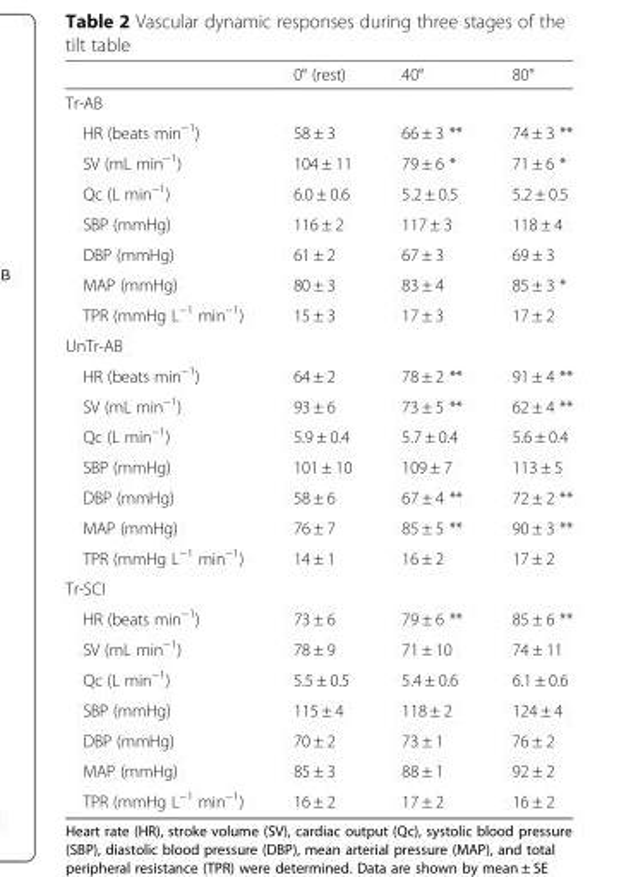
<table><thead><tr><td></td><td>0° (rest)</td><td>40°</td><td>80°</td></tr></thead><tbody><tr><td colspan="4">Tr-AB</td></tr><tr><td>HR (beats min<sup>−1</sup>)</td><td>58 ± 3</td><td>66 ± 3 **</td><td>74 ± 3 **</td></tr><tr><td>SV (mL min<sup>−1</sup>)</td><td>104 ± 11</td><td>79 ± 6 *</td><td>71 ± 6 *</td></tr><tr><td>Qc (L min<sup>−1</sup>)</td><td>6.0 ± 0.6</td><td>5.2 ± 0.5</td><td>5.2 ± 0.5</td></tr><tr><td>SBP (mmHg)</td><td>116 ± 2</td><td>117 ± 3</td><td>118 ± 4</td></tr><tr><td>DBP (mmHg)</td><td>61 ± 2</td><td>67 ± 3</td><td>69 ± 3</td></tr><tr><td>MAP (mmHg)</td><td>80 ± 3</td><td>83 ± 4</td><td>85 ± 3 *</td></tr><tr><td>TPR (mmHg L<sup>−1</sup> min<sup>−1</sup>)</td><td>15 ± 3</td><td>17 ± 3</td><td>17 ± 2</td></tr><tr><td colspan="4">UnTr-AB</td></tr><tr><td>HR (beats min<sup>−1</sup>)</td><td>64 ± 2</td><td>78 ± 2 **</td><td>91 ± 4 **</td></tr><tr><td>SV (mL min<sup>−1</sup>)</td><td>93 ± 6</td><td>73 ± 5 **</td><td>62 ± 4 **</td></tr><tr><td>Qc (L min<sup>−1</sup>)</td><td>5.9 ± 0.4</td><td>5.7 ± 0.4</td><td>5.6 ± 0.4</td></tr><tr><td>SBP (mmHg)</td><td>101 ± 10</td><td>109 ± 7</td><td>113 ± 5</td></tr><tr><td>DBP (mmHg)</td><td>58 ± 6</td><td>67 ± 4 **</td><td>72 ± 2 **</td></tr><tr><td>MAP (mmHg)</td><td>76 ± 7</td><td>85 ± 5 **</td><td>90 ± 3 **</td></tr><tr><td>TPR (mmHg L<sup>−1</sup> min<sup>−1</sup>)</td><td>14 ± 1</td><td>16 ± 2</td><td>17 ± 2</td></tr><tr><td colspan="4">Tr-SCI</td></tr><tr><td>HR (beats min<sup>−1</sup>)</td><td>73 ± 6</td><td>79 ± 6 **</td><td>85 ± 6 **</td></tr><tr><td>SV (mL min<sup>−1</sup>)</td><td>78 ± 9</td><td>71 ± 10</td><td>74 ± 11</td></tr><tr><td>Qc (L min<sup>−1</sup>)</td><td>5.5 ± 0.5</td><td>5.4 ± 0.6</td><td>6.1 ± 0.6</td></tr><tr><td>SBP (mmHg)</td><td>115 ± 4</td><td>118 ± 2</td><td>124 ± 4</td></tr><tr><td>DBP (mmHg)</td><td>70 ± 2</td><td>73 ± 1</td><td>76 ± 2</td></tr><tr><td>MAP (mmHg)</td><td>85 ± 3</td><td>88 ± 1</td><td>92 ± 2</td></tr><tr><td>TPR (mmHg L<sup>−1</sup> min<sup>−1</sup>)</td><td>16 ± 2</td><td>17 ± 2</td><td>16 ± 2</td></tr></tbody></table>